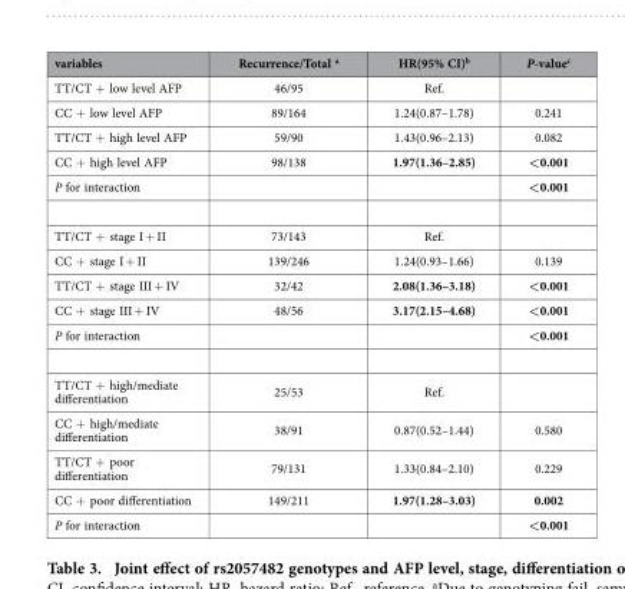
<table><thead><tr><td>variables</td><td>Recurrence/Total a</td><td>HR(95% CI)<sup>b</sup></td><td>P-value<sup>c</sup></td></tr></thead><tbody><tr><td>TT/CT + low level AFP</td><td>46/95</td><td>Ref.</td><td></td></tr><tr><td>CC + low level AFP</td><td>89/164</td><td>1.24(0.87–1.78)</td><td>0.241</td></tr><tr><td>TT/CT + high level AFP</td><td>59/90</td><td>1.43(0.96–2.13)</td><td>0.082</td></tr><tr><td>CC + high level AFP</td><td>98/138</td><td>1.97(1.36–2.85)</td><td>&lt;0.001</td></tr><tr><td>P for interaction</td><td></td><td></td><td>&lt;0.001</td></tr><tr><td>TT/CT + stage I + II</td><td>73/143</td><td>Ref.</td><td></td></tr><tr><td>CC + stage I + II</td><td>139/246</td><td>1.24(0.93–1.66)</td><td>0.139</td></tr><tr><td>TT/CT + stage III + IV</td><td>32/42</td><td>2.08(1.36–3.18)</td><td>&lt;0.001</td></tr><tr><td>CC + stage III + IV</td><td>48/56</td><td>3.17(2.15–4.68)</td><td>&lt;0.001</td></tr><tr><td>P for interaction</td><td></td><td></td><td>&lt;0.001</td></tr><tr><td>TT/CT + high/mediate differentiation</td><td>25/53</td><td>Ref.</td><td></td></tr><tr><td>CC + high/mediate differentiation</td><td>38/91</td><td>0.87(0.52–1.44)</td><td>0.580</td></tr><tr><td>TT/CT + poor differentiation</td><td>79/131</td><td>1.33(0.84–2.10)</td><td>0.229</td></tr><tr><td>CC + poor differentiation</td><td>149/211</td><td>1.97(1.28–3.03)</td><td>0.002</td></tr><tr><td>P for interaction</td><td></td><td></td><td>&lt;0.001</td></tr></tbody></table>